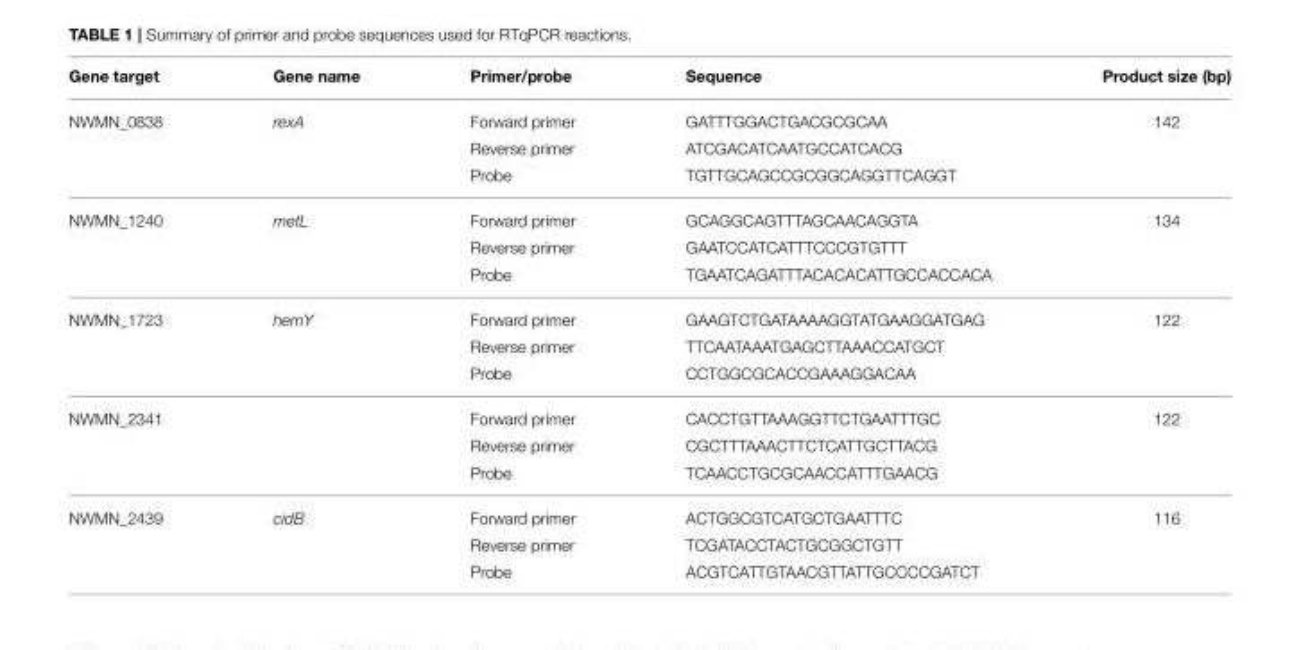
<table><thead><tr><td>Gene target</td><td>Gene name</td><td>Primer/probe</td><td>Sequence</td><td>Product size (bp)</td></tr></thead><tbody><tr><td rowspan="3">NWMN_0838</td><td>rexA</td><td>Forward primer</td><td>GATTTGGACTGACGCGCAA</td><td>142</td></tr><tr><td></td><td>Reverse primer</td><td>ATCGACATCAATGCCATCACG</td><td></td></tr><tr><td></td><td>Probe</td><td>TGTTGCAGCCGCGGCAGGTTCAGGT</td><td></td></tr><tr><td rowspan="3">NWMN_1240</td><td>metL</td><td>Forward primer</td><td>GCAGGCAGTTTAGCAACAGGTA</td><td>134</td></tr><tr><td></td><td>Reverse primer</td><td>GAATCCATCATTTCCCGTGTTT</td><td></td></tr><tr><td></td><td>Probe</td><td>TGAATCAGATTTACACACATTGCCACCACA</td><td></td></tr><tr><td rowspan="3">NWMN_1723</td><td>hemY</td><td>Forward primer</td><td>GAAGTCTGATAAAAGGTATGAAGGATGAG</td><td>122</td></tr><tr><td></td><td>Reverse primer</td><td>TTCAATAAATGAGCTTAAACCATGCT</td><td></td></tr><tr><td></td><td>Probe</td><td>CCTGGCGCACCGAAAGGACAA</td><td></td></tr><tr><td rowspan="3">NWMN_2341</td><td></td><td>Forward primer</td><td>CACCTGTTAAAGGTTCTGAATTTGC</td><td>122</td></tr><tr><td></td><td>Reverse primer</td><td>CGCTTTAAACTTCTCATTGCTTACG</td><td></td></tr><tr><td></td><td>Probe</td><td>TCAACCTGCGCAACCATTTGAACG</td><td></td></tr><tr><td rowspan="3">NWMN_2439</td><td>cidB</td><td>Forward primer</td><td>ACTGGCGTCATGCTGAATTTC</td><td>116</td></tr><tr><td></td><td>Reverse primer</td><td>TCGATACCTACTGCGGCTGTT</td><td></td></tr><tr><td></td><td>Probe</td><td>ACGTCATTGTAACGTTATTGCCCCGATCT</td><td></td></tr></tbody></table>